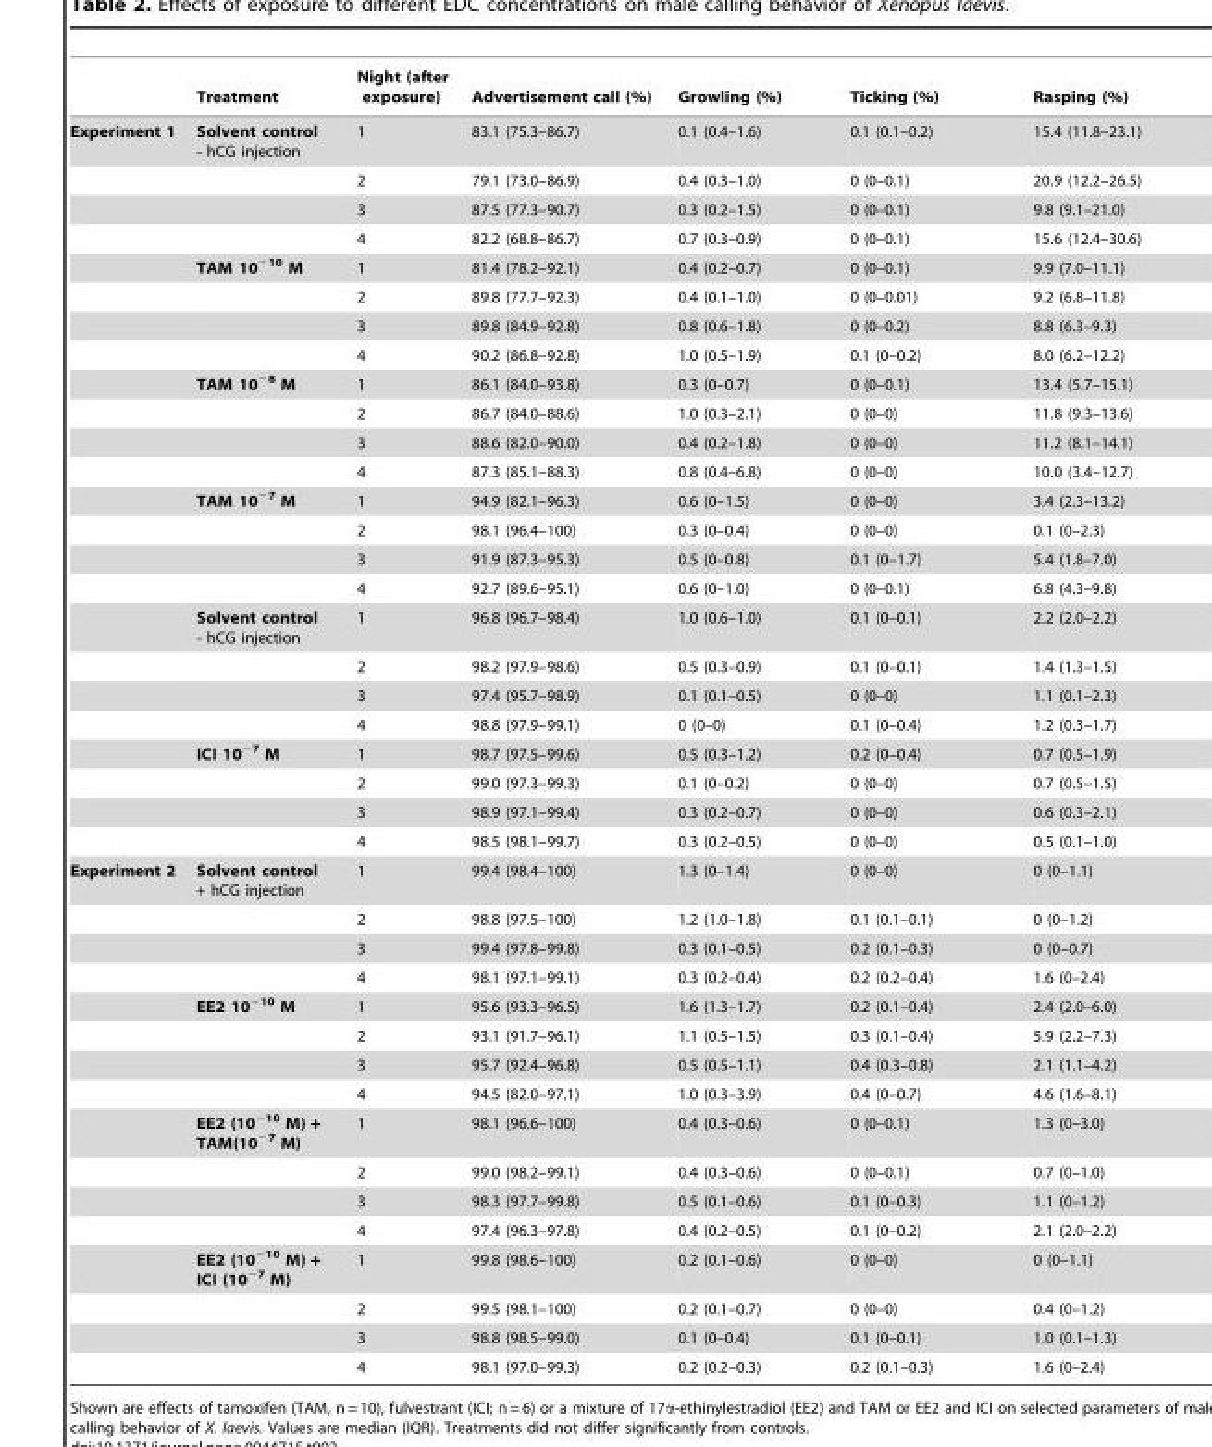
<table><thead><tr><td></td><td>Treatment</td><td>Night (after exposure)</td><td>Advertisement call (%)</td><td>Growling (%)</td><td>Ticking (%)</td><td>Rasping (%)</td></tr></thead><tbody><tr><td rowspan="24">Experiment 1</td><td>Solvent control - hCG injection</td><td>1</td><td>83.1 (75.3–86.7)</td><td>0.1 (0.4–1.6)</td><td>0.1 (0.1–0.2)</td><td>15.4 (11.8–23.1)</td></tr><tr><td></td><td>2</td><td>79.1 (73.0–86.9)</td><td>0.4 (0.3–1.0)</td><td>0 (0–0.1)</td><td>20.9 (12.2–26.5)</td></tr><tr><td></td><td>3</td><td>87.5 (77.3–90.7)</td><td>0.3 (0.2–1.5)</td><td>0 (0–0.1)</td><td>9.8 (9.1–21.0)</td></tr><tr><td></td><td>4</td><td>82.2 (68.8–86.7)</td><td>0.7 (0.3–0.9)</td><td>0 (0–0.1)</td><td>15.6 (12.4–30.6)</td></tr><tr><td>TAM 10<sup>−10</sup> M</td><td>1</td><td>81.4 (78.2–92.1)</td><td>0.4 (0.2–0.7)</td><td>0 (0–0.1)</td><td>9.9 (7.0–11.1)</td></tr><tr><td></td><td>2</td><td>89.8 (77.7–92.3)</td><td>0.4 (0.1–1.0)</td><td>0 (0–0.01)</td><td>9.2 (6.8–11.8)</td></tr><tr><td></td><td>3</td><td>89.8 (84.9–92.8)</td><td>0.8 (0.6–1.8)</td><td>0 (0–0.2)</td><td>8.8 (6.3–9.3)</td></tr><tr><td></td><td>4</td><td>90.2 (86.8–92.8)</td><td>1.0 (0.5–1.9)</td><td>0.1 (0–0.2)</td><td>8.0 (6.2–12.2)</td></tr><tr><td>TAM 10<sup>−8</sup> M</td><td>1</td><td>86.1 (84.0–93.8)</td><td>0.3 (0–0.7)</td><td>0 (0–0.1)</td><td>13.4 (5.7–15.1)</td></tr><tr><td></td><td>2</td><td>86.7 (84.0–88.6)</td><td>1.0 (0.3–2.1)</td><td>0 (0–0)</td><td>11.8 (9.3–13.6)</td></tr><tr><td></td><td>3</td><td>88.6 (82.0–90.0)</td><td>0.4 (0.2–1.8)</td><td>0 (0–0)</td><td>11.2 (8.1–14.1)</td></tr><tr><td></td><td>4</td><td>87.3 (85.1–88.3)</td><td>0.8 (0.4–6.8)</td><td>0 (0–0)</td><td>10.0 (3.4–12.7)</td></tr><tr><td>TAM 10<sup>−7</sup> M</td><td>1</td><td>94.9 (82.1–96.3)</td><td>0.6 (0–1.5)</td><td>0 (0–0)</td><td>3.4 (2.3–13.2)</td></tr><tr><td></td><td>2</td><td>98.1 (96.4–100)</td><td>0.3 (0–0.4)</td><td>0 (0–0)</td><td>0.1 (0–2.3)</td></tr><tr><td></td><td>3</td><td>91.9 (87.3–95.3)</td><td>0.5 (0–0.8)</td><td>0.1 (0–1.7)</td><td>5.4 (1.8–7.0)</td></tr><tr><td></td><td>4</td><td>92.7 (89.6–95.1)</td><td>0.6 (0–1.0)</td><td>0 (0–0.1)</td><td>6.8 (4.3–9.8)</td></tr><tr><td>Solvent control - hCG injection</td><td>1</td><td>96.8 (96.7–98.4)</td><td>1.0 (0.6–1.0)</td><td>0.1 (0–0.1)</td><td>2.2 (2.0–2.2)</td></tr><tr><td></td><td>2</td><td>98.2 (97.9–98.6)</td><td>0.5 (0.3–0.9)</td><td>0.1 (0–0.1)</td><td>1.4 (1.3–1.5)</td></tr><tr><td></td><td>3</td><td>97.4 (95.7–98.9)</td><td>0.1 (0.1–0.5)</td><td>0 (0–0)</td><td>1.1 (0.1–2.3)</td></tr><tr><td></td><td>4</td><td>98.8 (97.9–99.1)</td><td>0 (0–0)</td><td>0.1 (0–0.4)</td><td>1.2 (0.3–1.7)</td></tr><tr><td>ICI 10<sup>−7</sup> M</td><td>1</td><td>98.7 (97.5–99.6)</td><td>0.5 (0.3–1.2)</td><td>0.2 (0–0.4)</td><td>0.7 (0.5–1.9)</td></tr><tr><td></td><td>2</td><td>99.0 (97.3–99.3)</td><td>0.1 (0–0.2)</td><td>0 (0–0)</td><td>0.7 (0.5–1.5)</td></tr><tr><td></td><td>3</td><td>98.9 (97.1–99.4)</td><td>0.3 (0.2–0.7)</td><td>0 (0–0)</td><td>0.6 (0.3–2.1)</td></tr><tr><td></td><td>4</td><td>98.5 (98.1–99.7)</td><td>0.3 (0.2–0.5)</td><td>0 (0–0)</td><td>0.5 (0.1–1.0)</td></tr><tr><td rowspan="16">Experiment 2</td><td>Solvent control + hCG injection</td><td>1</td><td>99.4 (98.4–100)</td><td>1.3 (0–1.4)</td><td>0 (0–0)</td><td>0 (0–1.1)</td></tr><tr><td></td><td>2</td><td>98.8 (97.5–100)</td><td>1.2 (1.0–1.8)</td><td>0.1 (0.1–0.1)</td><td>0 (0–1.2)</td></tr><tr><td></td><td>3</td><td>99.4 (97.8–99.8)</td><td>0.3 (0.1–0.5)</td><td>0.2 (0.1–0.3)</td><td>0 (0–0.7)</td></tr><tr><td></td><td>4</td><td>98.1 (97.1–99.1)</td><td>0.3 (0.2–0.4)</td><td>0.2 (0.2–0.4)</td><td>1.6 (0–2.4)</td></tr><tr><td>EE2 10<sup>−10</sup> M</td><td>1</td><td>95.6 (93.3–96.5)</td><td>1.6 (1.3–1.7)</td><td>0.2 (0.1–0.4)</td><td>2.4 (2.0–6.0)</td></tr><tr><td></td><td>2</td><td>93.1 (91.7–96.1)</td><td>1.1 (0.5–1.5)</td><td>0.3 (0.1–0.4)</td><td>5.9 (2.2–7.3)</td></tr><tr><td></td><td>3</td><td>95.7 (92.4–96.8)</td><td>0.5 (0.5–1.1)</td><td>0.4 (0.3–0.8)</td><td>2.1 (1.1–4.2)</td></tr><tr><td></td><td>4</td><td>94.5 (82.0–97.1)</td><td>1.0 (0.3–3.9)</td><td>0.4 (0–0.7)</td><td>4.6 (1.6–8.1)</td></tr><tr><td>EE2 (10<sup>−10</sup> M) + TAM(10<sup>−7</sup> M)</td><td>1</td><td>98.1 (96.6–100)</td><td>0.4 (0.3–0.6)</td><td>0 (0–0.1)</td><td>1.3 (0–3.0)</td></tr><tr><td></td><td>2</td><td>99.0 (98.2–99.1)</td><td>0.4 (0.3–0.6)</td><td>0 (0–0.1)</td><td>0.7 (0–1.0)</td></tr><tr><td></td><td>3</td><td>98.3 (97.7–99.8)</td><td>0.5 (0.1–0.6)</td><td>0.1 (0–0.3)</td><td>1.1 (0–1.2)</td></tr><tr><td></td><td>4</td><td>97.4 (96.3–97.8)</td><td>0.4 (0.2–0.5)</td><td>0.1 (0–0.2)</td><td>2.1 (2.0–2.2)</td></tr><tr><td>EE2 (10<sup>−10</sup> M) + ICI (10<sup>−7</sup> M)</td><td>1</td><td>99.8 (98.6–100)</td><td>0.2 (0.1–0.6)</td><td>0 (0–0)</td><td>0 (0–1.1)</td></tr><tr><td></td><td>2</td><td>99.5 (98.1–100)</td><td>0.2 (0.1–0.7)</td><td>0 (0–0)</td><td>0.4 (0–1.2)</td></tr><tr><td></td><td>3</td><td>98.8 (98.5–99.0)</td><td>0.1 (0–0.4)</td><td>0.1 (0–0.1)</td><td>1.0 (0.1–1.3)</td></tr><tr><td></td><td>4</td><td>98.1 (97.0–99.3)</td><td>0.2 (0.2–0.3)</td><td>0.2 (0.1–0.3)</td><td>1.6 (0–2.4)</td></tr></tbody></table>